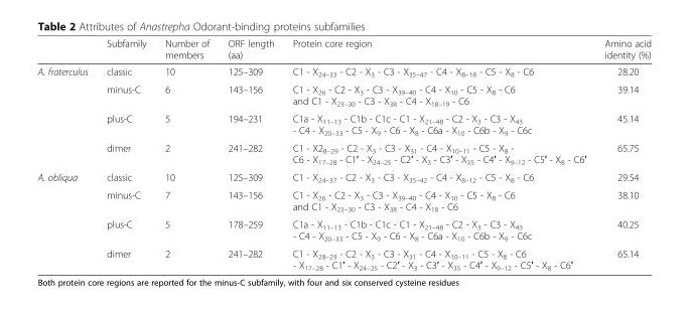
<table><thead><tr><td></td><td>Subfamily</td><td>Number of members</td><td>ORF length (aa)</td><td>Protein core region</td><td>Amino acid identity (%)</td></tr></thead><tbody><tr><td rowspan="4">A. fraterculus</td><td>classic</td><td>10</td><td>125–309</td><td>C1 - X<sub>24–33</sub> - C2 - X<sub>3</sub> - C3 - X<sub>35–47</sub> - C4 - X<sub>8–18</sub> - C5 - X<sub>8</sub> - C6</td><td>28.20</td></tr><tr><td>minus-C</td><td>6</td><td>143–156</td><td>C1 - X<sub>26</sub> - C2 - X<sub>3</sub> - C3 - X<sub>39–40</sub> - C4 - X<sub>10</sub> - C5 - X<sub>8</sub> - C6 and C1 - X<sub>23–30</sub> - C3 - X<sub>38</sub> - C4 - X<sub>18–19</sub> - C6</td><td>39.14</td></tr><tr><td>plus-C</td><td>5</td><td>194–231</td><td>C1a - X<sub>11–13</sub> - C1b - C1c - C1 - X<sub>21–48</sub> - C2 - X<sub>3</sub> - C3 - X<sub>43</sub> - C4 - X<sub>20–33</sub> - C5 - X<sub>9</sub> - C6 - X<sub>8</sub> - C6a - X<sub>10</sub> - C6b - X<sub>9</sub> - C6c</td><td>45.14</td></tr><tr><td>dimer</td><td>2</td><td>241–282</td><td>C1 - X2<sub>8–29</sub> - C2 - X<sub>3</sub> - C3 - X<sub>31</sub> - C4 - X<sub>10–11</sub> - C5 - X<sub>8</sub> - C6 - X<sub>17–28</sub> - C1′ - X<sub>24–25</sub> - C2′ - X<sub>3</sub> - C3′ - X<sub>35</sub> - C4′ - X<sub>9–12</sub> - C5′ - X<sub>8</sub> - C6′</td><td>65.75</td></tr><tr><td rowspan="4">A. obliqua</td><td>classic</td><td>10</td><td>125–309</td><td>C1 - X<sub>24–37</sub> - C2 - X<sub>3</sub> - C3 - X<sub>35–42</sub> - C4 - X<sub>8–12</sub> - C5 - X<sub>8</sub> - C6</td><td>29.54</td></tr><tr><td>minus-C</td><td>7</td><td>143–156</td><td>C1 - X<sub>26</sub> - C2 - X<sub>3</sub> - C3 - X<sub>39–40</sub> - C4 - X<sub>10</sub> - C5 - X<sub>8</sub> - C6 and C1 - X<sub>23–30</sub> - C3 - X<sub>38</sub> - C4 - X<sub>18</sub> - C6</td><td>38.10</td></tr><tr><td>plus-C</td><td>5</td><td>178–259</td><td>C1a - X<sub>11–13</sub> - C1b - C1c - C1 - X<sub>21–48</sub> - C2 - X<sub>3</sub> - C3 - X<sub>43</sub> - C4 - X<sub>20–33</sub> - C5 - X<sub>9</sub> - C6 - X<sub>8</sub> - C6a - X<sub>10</sub> - C6b - X<sub>9</sub> - C6c</td><td>40.25</td></tr><tr><td>dimer</td><td>2</td><td>241–282</td><td>C1 - X<sub>28–29</sub> - C2 - X<sub>3</sub> - C3 - X<sub>31</sub> - C4 - X<sub>10–11</sub> - C5 - X<sub>8</sub> - C6 - X<sub>17–28</sub> - C1′ - X<sub>24–25</sub> - C2′ - X<sub>3</sub> - C3′ - X<sub>35</sub> - C4′ - X<sub>9–12</sub> - C5′ - X<sub>8</sub> - C6′</td><td>65.14</td></tr></tbody></table>